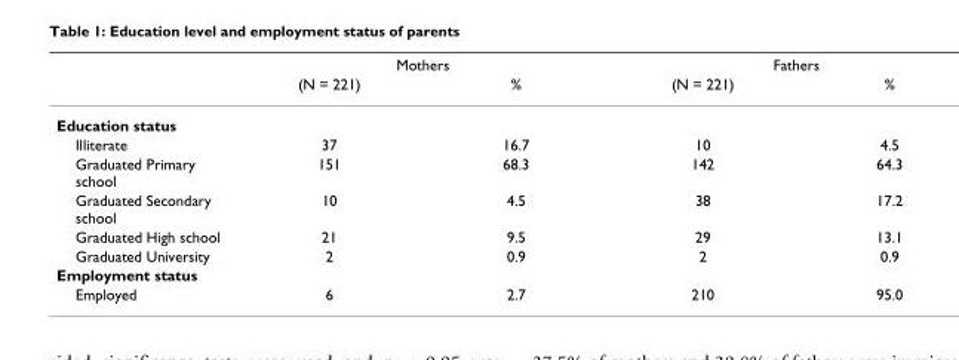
<table><thead><tr><td rowspan="2"></td><td colspan="2">Mothers</td><td colspan="2">Fathers</td></tr><tr><td>(N = 221)</td><td>%</td><td>(N = 221)</td><td>%</td></tr></thead><tbody><tr><td colspan="5">Education status</td></tr><tr><td>Illiterate</td><td>37</td><td>16.7</td><td>10</td><td>4.5</td></tr><tr><td>Graduated Primary school</td><td>151</td><td>68.3</td><td>142</td><td>64.3</td></tr><tr><td>Graduated Secondary school</td><td>10</td><td>4.5</td><td>38</td><td>17.2</td></tr><tr><td>Graduated High school</td><td>21</td><td>9.5</td><td>29</td><td>13.1</td></tr><tr><td>Graduated University</td><td>2</td><td>0.9</td><td>2</td><td>0.9</td></tr><tr><td colspan="5">Employment status</td></tr><tr><td>Employed</td><td>6</td><td>2.7</td><td>210</td><td>95.0</td></tr></tbody></table>